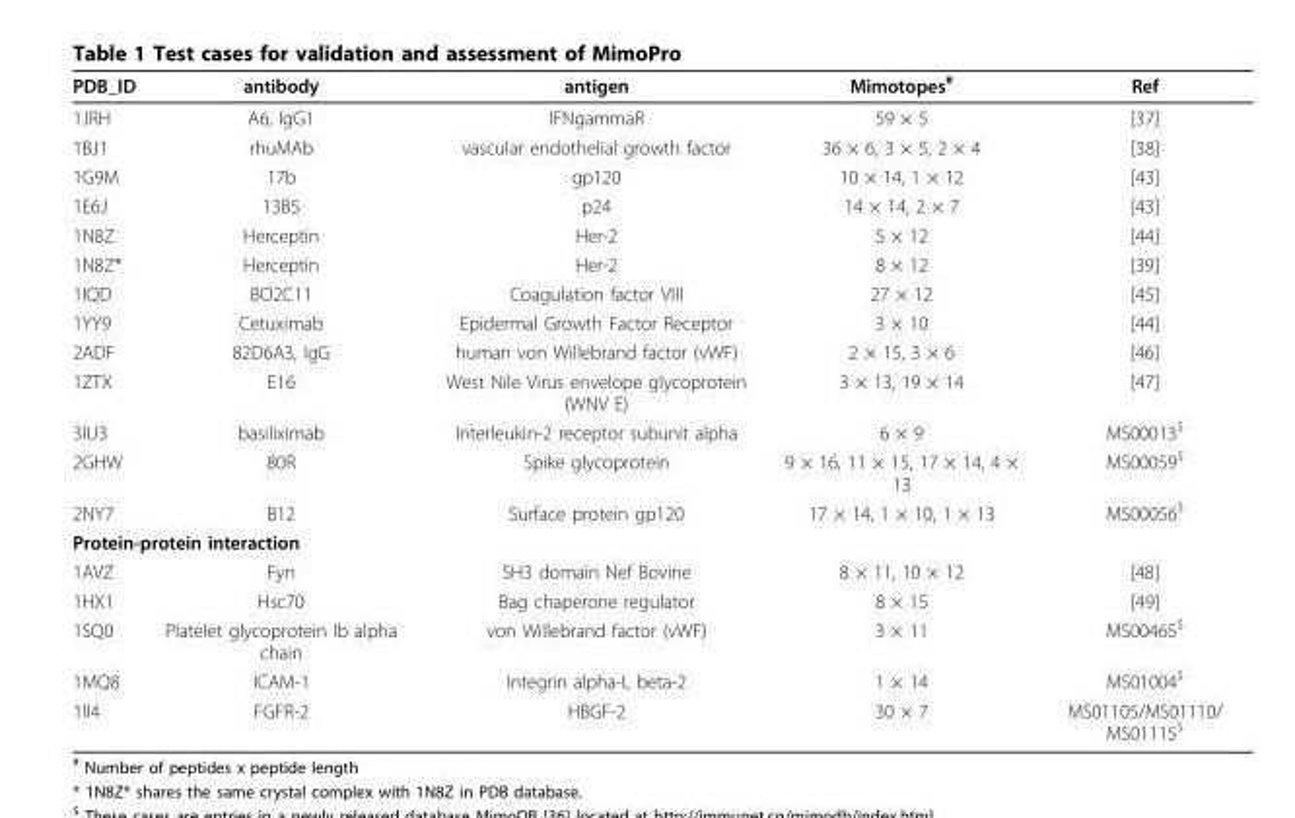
<table><thead><tr><td>PDB_ID</td><td>antibody</td><td>antigen</td><td>Mimotopes<sup>#</sup></td><td>Ref</td></tr></thead><tbody><tr><td>1JRH</td><td>A6, IgG1</td><td>IFNgammaR</td><td>59 × 5</td><td>[37]</td></tr><tr><td>1BJ1</td><td>rhuMAb</td><td>vascular endothelial growth factor</td><td>36 × 6, 3 × 5, 2 × 4</td><td>[38]</td></tr><tr><td>1G9M</td><td>17b</td><td>gp120</td><td>10 × 14, 1 × 12</td><td>[43]</td></tr><tr><td>1E6J</td><td>13B5</td><td>p24</td><td>14 × 14, 2 × 7</td><td>[43]</td></tr><tr><td>1N8Z</td><td>Herceptin</td><td>Her-2</td><td>5 × 12</td><td>[44]</td></tr><tr><td>1N8Z*</td><td>Herceptin</td><td>Her-2</td><td>8 × 12</td><td>[39]</td></tr><tr><td>1IQD</td><td>BO2C11</td><td>Coagulation factor VIII</td><td>27 × 12</td><td>[45]</td></tr><tr><td>1YY9</td><td>Cetuximab</td><td>Epidermal Growth Factor Receptor</td><td>3 × 10</td><td>[44]</td></tr><tr><td>2ADF</td><td>82D6A3, IgG</td><td>human von Willebrand factor (vWF)</td><td>2 × 15, 3 × 6</td><td>[46]</td></tr><tr><td>1ZTX</td><td>E16</td><td>West Nile Virus envelope glycoprotein (WNV E)</td><td>3 × 13, 19 × 14</td><td>[47]</td></tr><tr><td>3IU3</td><td>basiliximab</td><td>Interleukin-2 receptor subunit alpha</td><td>6 × 9</td><td>MS00013<sup>$</sup></td></tr><tr><td>2GHW</td><td>80R</td><td>Spike glycoprotein</td><td>9 × 16, 11 × 15, 17 × 14, 4 × 13</td><td>MS00059<sup>$</sup></td></tr><tr><td>2NY7</td><td>B12</td><td>Surface protein gp120</td><td>17 × 14, 1 × 10, 1 × 13</td><td>MS00056<sup>$</sup></td></tr><tr><td colspan="5">Protein-protein interaction</td></tr><tr><td>1AVZ</td><td>Fyn</td><td>SH3 domain Nef Bovine</td><td>8 × 11, 10 × 12</td><td>[48]</td></tr><tr><td>1HX1</td><td>Hsc70</td><td>Bag chaperone regulator</td><td>8 × 15</td><td>[49]</td></tr><tr><td>1SQ0</td><td>Platelet glycoprotein Ib alpha chain</td><td>von Willebrand factor (vWF)</td><td>3 × 11</td><td>MS00465<sup>$</sup></td></tr><tr><td>1MQ8</td><td>ICAM-1</td><td>Integrin alpha-L beta-2</td><td>1 × 14</td><td>MS01004<sup>$</sup></td></tr><tr><td>1II4</td><td>FGFR-2</td><td>HBGF-2</td><td>30 × 7</td><td>MS01105/MS01110/ MS01115<sup>$</sup></td></tr></tbody></table>